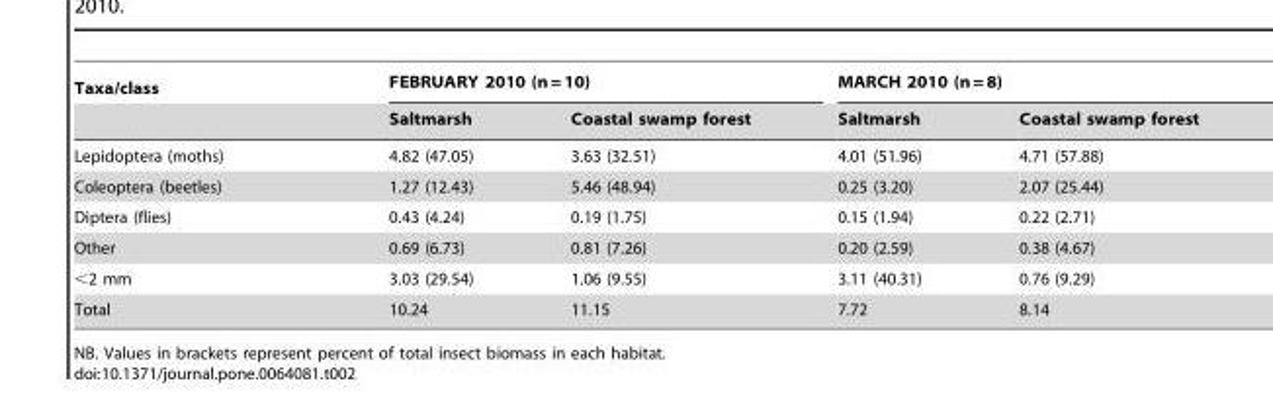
<table><thead><tr><td rowspan="2">Taxa/class</td><td colspan="2">FEBRUARY 2010 (n = 10)</td><td colspan="2">MARCH 2010 (n = 8)</td></tr><tr><td>Saltmarsh</td><td>Coastal swamp forest</td><td>Saltmarsh</td><td>Coastal swamp forest</td></tr></thead><tbody><tr><td>Lepidoptera (moths)</td><td>4.82 (47.05)</td><td>3.63 (32.51)</td><td>4.01 (51.96)</td><td>4.71 (57.88)</td></tr><tr><td>Coleoptera (beetles)</td><td>1.27 (12.43)</td><td>5.46 (48.94)</td><td>0.25 (3.20)</td><td>2.07 (25.44)</td></tr><tr><td>Diptera (flies)</td><td>0.43 (4.24)</td><td>0.19 (1.75)</td><td>0.15 (1.94)</td><td>0.22 (2.71)</td></tr><tr><td>Other</td><td>0.69 (6.73)</td><td>0.81 (7.26)</td><td>0.20 (2.59)</td><td>0.38 (4.67)</td></tr><tr><td>&lt;2 mm</td><td>3.03 (29.54)</td><td>1.06 (9.55)</td><td>3.11 (40.31)</td><td>0.76 (9.29)</td></tr><tr><td>Total</td><td>10.24</td><td>11.15</td><td>7.72</td><td>8.14</td></tr></tbody></table>